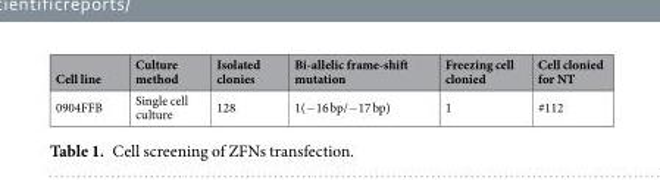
<table><thead><tr><td>Cell line</td><td>Culture method</td><td>Isolated clonies</td><td>Bi-allelic frame-shift mutation</td><td>Freezing cell clonied</td><td>Cell clonied for NT</td></tr></thead><tbody><tr><td>0904FFB</td><td>Single cell culture</td><td>128</td><td>1(−16 bp/−17 bp)</td><td>1</td><td>#112</td></tr></tbody></table>